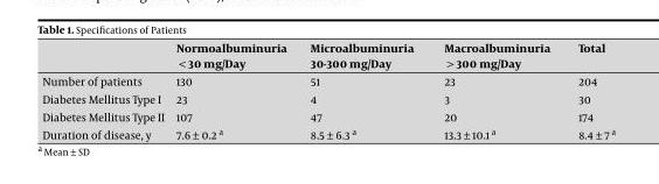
<table><thead><tr><td></td><td>Normoalbuminuria &lt; 30 mg/Day</td><td>Microalbuminuria 30-300 mg/Day</td><td>Macroalbuminuria &gt; 300 mg/Day</td><td>Total</td></tr></thead><tbody><tr><td>Number of patients</td><td>130</td><td>51</td><td>23</td><td>204</td></tr><tr><td>Diabetes Mellitus Type I</td><td>23</td><td>4</td><td>3</td><td>30</td></tr><tr><td>Diabetes Mellitus Type II</td><td>107</td><td>47</td><td>20</td><td>174</td></tr><tr><td>Duration of disease, y</td><td>7.6 ± 0.2 a</td><td>8.5 ± 6.3 a</td><td>13.3 ± 10.1 a</td><td>8.4 ± 7 a</td></tr></tbody></table>